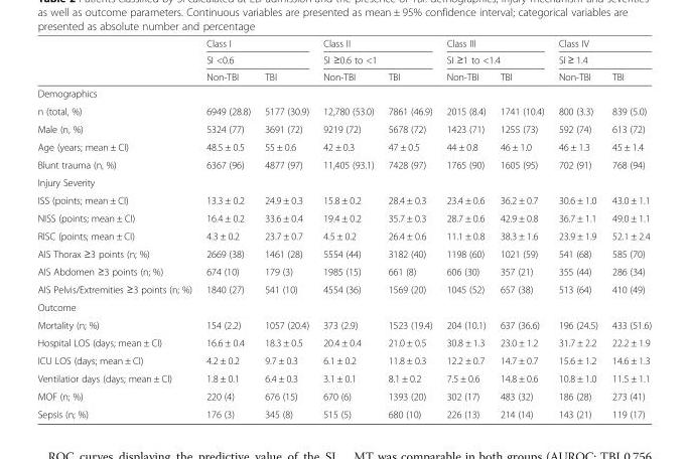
<table><thead><tr><td rowspan="3"></td><td rowspan="2" colspan="2">Class I SI &lt;0.6</td><td rowspan="2" colspan="2">Class II SI ≥0.6 to &lt;1</td><td rowspan="2" colspan="2">Class III SI ≥1 to &lt;1.4</td><td rowspan="2" colspan="2">Class IV SI ≥ 1.4</td></tr><tr></tr><tr><td>Non-TBI</td><td>TBI</td><td>Non-TBI</td><td>TBI</td><td>Non-TBI</td><td>TBI</td><td>Non-TBI</td><td>TBI</td></tr></thead><tbody><tr><td colspan="9">Demographics</td></tr><tr><td>n (total, %)</td><td>6949 (28.8)</td><td>5177 (30.9)</td><td>12,780 (53.0)</td><td>7861 (46.9)</td><td>2015 (8.4)</td><td>1741 (10.4)</td><td>800 (3.3)</td><td>839 (5.0)</td></tr><tr><td>Male (n, %)</td><td>5324 (77)</td><td>3691 (72)</td><td>9219 (72)</td><td>5678 (72)</td><td>1423 (71)</td><td>1255 (73)</td><td>592 (74)</td><td>613 (72)</td></tr><tr><td>Age (years; mean ± CI)</td><td>48.5 ± 0.5</td><td>55 ± 0.6</td><td>42 ± 0.3</td><td>47 ± 0.5</td><td>44 ± 0.8</td><td>46 ± 1.0</td><td>46 ± 1.3</td><td>45 ± 1.4</td></tr><tr><td>Blunt trauma (n, %)</td><td>6367 (96)</td><td>4877 (97)</td><td>11,405 (93.1)</td><td>7428 (97)</td><td>1765 (90)</td><td>1605 (95)</td><td>702 (91)</td><td>768 (94)</td></tr><tr><td colspan="9">Injury Severity</td></tr><tr><td>ISS (points; mean ± CI)</td><td>13.3 ± 0.2</td><td>24.9 ± 0.3</td><td>15.8 ± 0.2</td><td>28.4 ± 0.3</td><td>23.4 ± 0.6</td><td>36.2 ± 0.7</td><td>30.6 ± 1.0</td><td>43.0 ± 1.1</td></tr><tr><td>NISS (points; mean ± CI)</td><td>16.4 ± 0.2</td><td>33.6 ± 0.4</td><td>19.4 ± 0.2</td><td>35.7 ± 0.3</td><td>28.7 ± 0.6</td><td>42.9 ± 0.8</td><td>36.7 ± 1.1</td><td>49.0 ± 1.1</td></tr><tr><td>RISC (points; mean ± CI)</td><td>4.3 ± 0.2</td><td>23.7 ± 0.7</td><td>4.5 ± 0.2</td><td>26.4 ± 0.6</td><td>11.1 ± 0.8</td><td>38.3 ± 1.6</td><td>23.9 ± 1.9</td><td>52.1 ± 2.4</td></tr><tr><td>AIS Thorax ≥3 points (n; %)</td><td>2669 (38)</td><td>1461 (28)</td><td>5554 (44)</td><td>3182 (40)</td><td>1198 (60)</td><td>1021 (59)</td><td>541 (68)</td><td>585 (70)</td></tr><tr><td>AIS Abdomen ≥3 points (n; %)</td><td>674 (10)</td><td>179 (3)</td><td>1985 (15)</td><td>661 (8)</td><td>606 (30)</td><td>357 (21)</td><td>355 (44)</td><td>286 (34)</td></tr><tr><td>AIS Pelvis/Extremities ≥3 points (n; %)</td><td>1840 (27)</td><td>541 (10)</td><td>4554 (36)</td><td>1569 (20)</td><td>1045 (52)</td><td>657 (38)</td><td>513 (64)</td><td>410 (49)</td></tr><tr><td colspan="9">Outcome</td></tr><tr><td>Mortality (n; %)</td><td>154 (2.2)</td><td>1057 (20.4)</td><td>373 (2.9)</td><td>1523 (19.4)</td><td>204 (10.1)</td><td>637 (36.6)</td><td>196 (24.5)</td><td>433 (51.6)</td></tr><tr><td>Hospital LOS (days; mean ± CI)</td><td>16.6 ± 0.4</td><td>18.3 ± 0.5</td><td>20.4 ± 0.4</td><td>21.0 ± 0.5</td><td>30.8 ± 1.3</td><td>23.0 ± 1.2</td><td>31.7 ± 2.2</td><td>22.2 ± 1.9</td></tr><tr><td>ICU LOS (days; mean ± CI)</td><td>4.2 ± 0.2</td><td>9.7 ± 0.3</td><td>6.1 ± 0.2</td><td>11.8 ± 0.3</td><td>12.2 ± 0.7</td><td>14.7 ± 0.7</td><td>15.6 ± 1.2</td><td>14.6 ± 1.3</td></tr><tr><td>Ventilatior days (days; mean ± CI)</td><td>1.8 ± 0.1</td><td>6.4 ± 0.3</td><td>3.1 ± 0.1</td><td>8.1 ± 0.2</td><td>7.5 ± 0.6</td><td>14.8 ± 0.6</td><td>10.8 ± 1.0</td><td>11.5 ± 1.1</td></tr><tr><td>MOF (n; %)</td><td>220 (4)</td><td>676 (15)</td><td>670 (6)</td><td>1393 (20)</td><td>302 (17)</td><td>483 (32)</td><td>186 (28)</td><td>273 (41)</td></tr><tr><td>Sepsis (n; %)</td><td>176 (3)</td><td>345 (8)</td><td>515 (5)</td><td>680 (10)</td><td>226 (13)</td><td>214 (14)</td><td>143 (21)</td><td>119 (17)</td></tr></tbody></table>